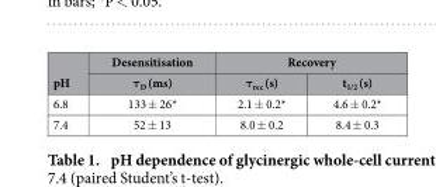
<table><thead><tr><td rowspan="2">pH</td><td rowspan="2">Desensitisation τ<sub>D</sub> (ms)</td><td colspan="2">Recovery</td></tr><tr><td>τ<sub>rec</sub> (s)</td><td>t<sub>1/2</sub> (s)</td></tr></thead><tbody><tr><td>6.8</td><td>133 ± 26*</td><td>2.1 ± 0.2*</td><td>4.6 ± 0.2*</td></tr><tr><td>7.4</td><td>52 ± 13</td><td>8.0 ± 0.2</td><td>8.4 ± 0.3</td></tr></tbody></table>